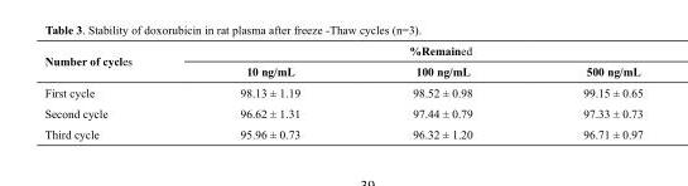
<table><thead><tr><td rowspan="2">Number of cycles</td><td colspan="3">%Remained</td></tr><tr><td>10 ng/mL</td><td>100 ng/mL</td><td>500 ng/mL</td></tr></thead><tbody><tr><td>First cycle</td><td>98.13 ± 1.19</td><td>98.52 ± 0.98</td><td>99.15 ± 0.65</td></tr><tr><td>Second cycle</td><td>96.62 ± 1.31</td><td>97.44 ± 0.79</td><td>97.33 ± 0.73</td></tr><tr><td>Third cycle</td><td>95.96 ± 0.73</td><td>96.32 ± 1.20</td><td>96.71 ± 0.97</td></tr></tbody></table>